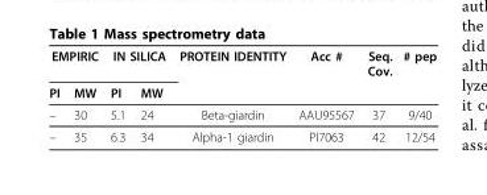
<table><thead><tr><td colspan="2">EMPIRIC</td><td colspan="2">IN SILICA</td><td rowspan="2">PROTEIN IDENTITY</td><td rowspan="2">Acc #</td><td rowspan="2">Seq. Cov.</td><td rowspan="2"># pep</td></tr><tr><td>PI</td><td>MW</td><td>PI</td><td>MW</td></tr></thead><tbody><tr><td>–</td><td>30</td><td>5.1</td><td>24</td><td>Beta-giardin</td><td>AAU95567</td><td>37</td><td>9/40</td></tr><tr><td>–</td><td>35</td><td>6.3</td><td>34</td><td>Alpha-1 giardin</td><td>PI7063</td><td>42</td><td>12/54</td></tr></tbody></table>